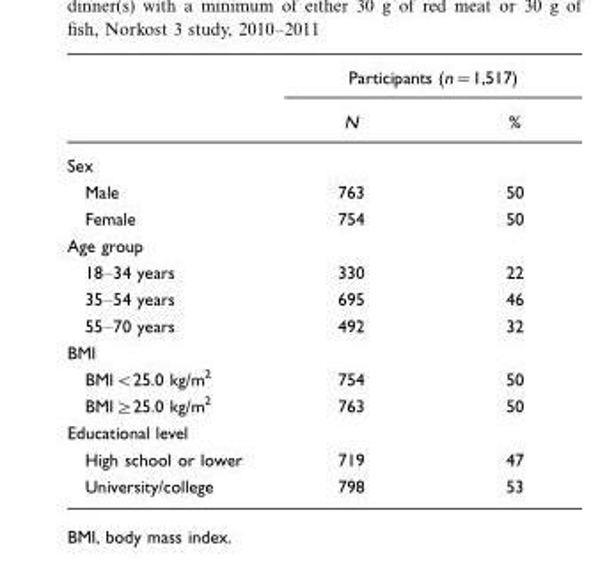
<table><thead><tr><td rowspan="2"></td><td colspan="2">Participants (n=1,517)</td></tr><tr><td>N</td><td>%</td></tr></thead><tbody><tr><td colspan="3">Sex</td></tr><tr><td>Male</td><td>763</td><td>50</td></tr><tr><td>Female</td><td>754</td><td>50</td></tr><tr><td colspan="3">Age group</td></tr><tr><td>18–34 years</td><td>330</td><td>22</td></tr><tr><td>35–54 years</td><td>695</td><td>46</td></tr><tr><td>55–70 years</td><td>492</td><td>32</td></tr><tr><td colspan="3">BMI</td></tr><tr><td>BMI&lt;25.0 kg/m<sup>2</sup></td><td>754</td><td>50</td></tr><tr><td>BMI≥25.0 kg/m<sup>2</sup></td><td>763</td><td>50</td></tr><tr><td colspan="3">Educational level</td></tr><tr><td>High school or lower</td><td>719</td><td>47</td></tr><tr><td>University/college</td><td>798</td><td>53</td></tr></tbody></table>